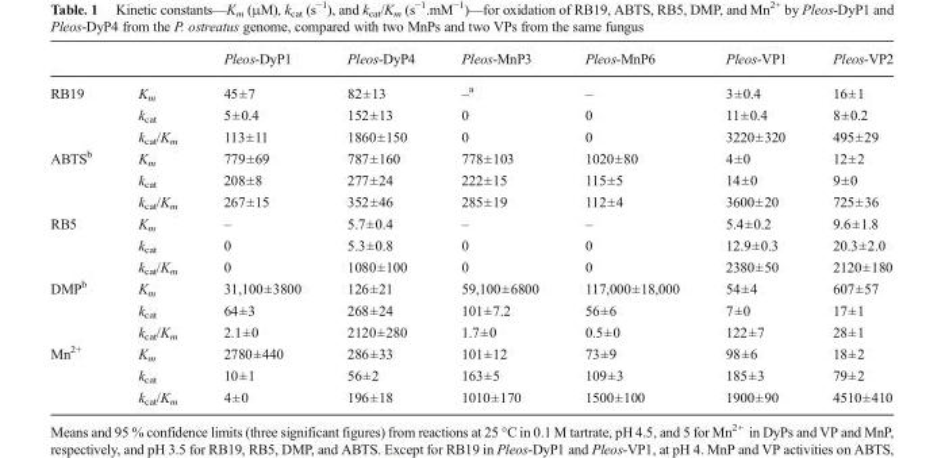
<table><thead><tr><td></td><td></td><td>Pleos-DyP1</td><td>Pleos-DyP4</td><td>Pleos-MnP3</td><td>Pleos-MnP6</td><td>Pleos-VP1</td><td>Pleos-VP2</td></tr></thead><tbody><tr><td rowspan="3">RB19</td><td>K<sub>m</sub></td><td>45±7</td><td>82±13</td><td>–<sup>a</sup></td><td>–</td><td>3±0.4</td><td>16±1</td></tr><tr><td>k<sub>cat</sub></td><td>5±0.4</td><td>152±13</td><td>0</td><td>0</td><td>11±0.4</td><td>8±0.2</td></tr><tr><td>k<sub>cat</sub>/K<sub>m</sub></td><td>113±11</td><td>1860±150</td><td>0</td><td>0</td><td>3220±320</td><td>495±29</td></tr><tr><td rowspan="3">ABTS<sup>b</sup></td><td>K<sub>m</sub></td><td>779±69</td><td>787±160</td><td>778±103</td><td>1020±80</td><td>4±0</td><td>12±2</td></tr><tr><td>k<sub>cat</sub></td><td>208±8</td><td>277±24</td><td>222±15</td><td>115±5</td><td>14±0</td><td>9±0</td></tr><tr><td>k<sub>cat</sub>/K<sub>m</sub></td><td>267±15</td><td>352±46</td><td>285±19</td><td>112±4</td><td>3600±20</td><td>725±36</td></tr><tr><td rowspan="3">RB5</td><td>K<sub>m</sub></td><td>–</td><td>5.7±0.4</td><td>–</td><td>–</td><td>5.4±0.2</td><td>9.6±1.8</td></tr><tr><td>k<sub>cat</sub></td><td>0</td><td>5.3±0.8</td><td>0</td><td>0</td><td>12.9±0.3</td><td>20.3±2.0</td></tr><tr><td>k<sub>cat</sub>/K<sub>m</sub></td><td>0</td><td>1080±100</td><td>0</td><td>0</td><td>2380±50</td><td>2120±180</td></tr><tr><td rowspan="3">DMP<sup>b</sup></td><td>K<sub>m</sub></td><td>31,100±3800</td><td>126±21</td><td>59,100±6800</td><td>117,000±18,000</td><td>54±4</td><td>607±57</td></tr><tr><td>k<sub>cat</sub></td><td>64±3</td><td>268±24</td><td>101±7.2</td><td>56±6</td><td>7±0</td><td>17±1</td></tr><tr><td>k<sub>cat</sub>/K<sub>m</sub></td><td>2.1±0</td><td>2120±280</td><td>1.7±0</td><td>0.5±0</td><td>122±7</td><td>28±1</td></tr><tr><td rowspan="3">Mn<sup>2+</sup></td><td>K<sub>m</sub></td><td>2780±440</td><td>286±33</td><td>101±12</td><td>73±9</td><td>98±6</td><td>18±2</td></tr><tr><td>k<sub>cat</sub></td><td>10±1</td><td>56±2</td><td>163±5</td><td>109±3</td><td>185±3</td><td>79±2</td></tr><tr><td>k<sub>cat</sub>/K<sub>m</sub></td><td>4±0</td><td>196±18</td><td>1010±170</td><td>1500±100</td><td>1900±90</td><td>4510±410</td></tr></tbody></table>